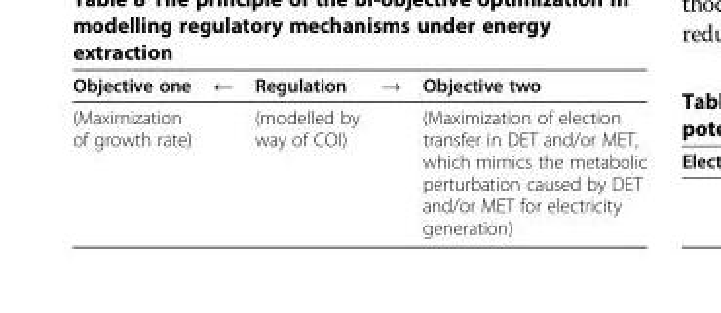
<table><thead><tr><td>Objective one</td><td>←</td><td>Regulation</td><td>→</td><td>Objective two</td></tr></thead><tbody><tr><td>(Maximization of growth rate)</td><td></td><td>(modelled by way of COI)</td><td></td><td>(Maximization of election transfer in DET and/or MET, which mimics the metabolic perturbation caused by DET and/or MET for electricity generation)</td></tr></tbody></table>